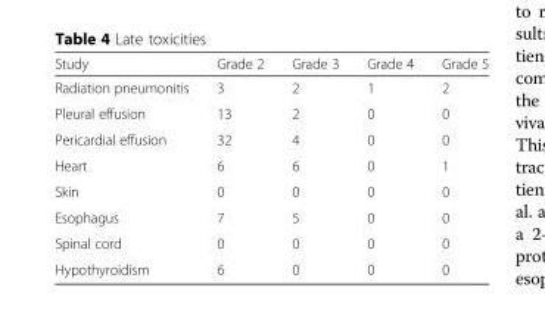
<table><thead><tr><td>Study</td><td>Grade 2</td><td>Grade 3</td><td>Grade 4</td><td>Grade 5</td></tr></thead><tbody><tr><td>Radiation pneumonitis</td><td>3</td><td>2</td><td>1</td><td>2</td></tr><tr><td>Pleural effusion</td><td>13</td><td>2</td><td>0</td><td>0</td></tr><tr><td>Pericardial effusion</td><td>32</td><td>4</td><td>0</td><td>0</td></tr><tr><td>Heart</td><td>6</td><td>6</td><td>0</td><td>1</td></tr><tr><td>Skin</td><td>0</td><td>0</td><td>0</td><td>0</td></tr><tr><td>Esophagus</td><td>7</td><td>5</td><td>0</td><td>0</td></tr><tr><td>Spinal cord</td><td>0</td><td>0</td><td>0</td><td>0</td></tr><tr><td>Hypothyroidism</td><td>6</td><td>0</td><td>0</td><td>0</td></tr></tbody></table>